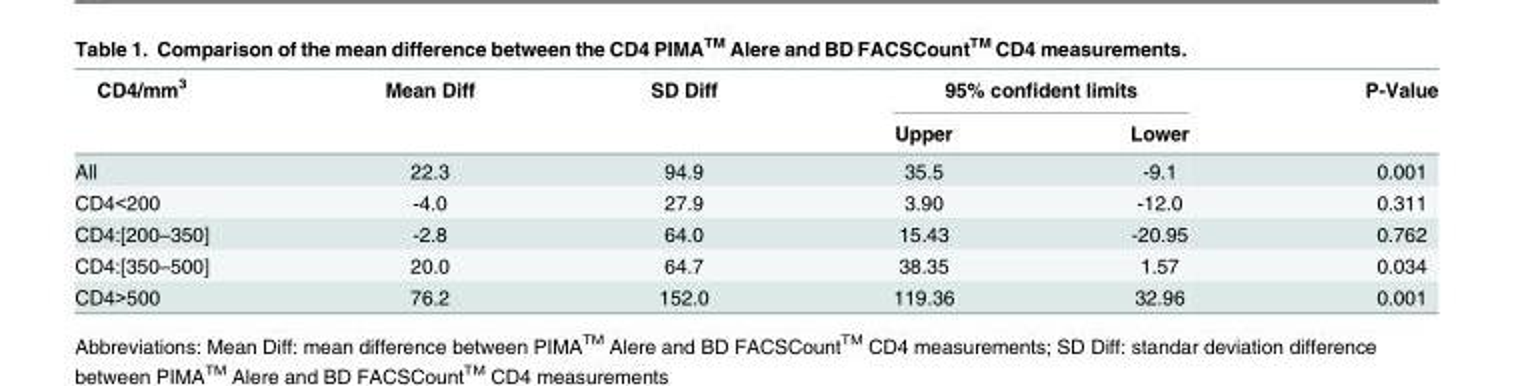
<table><thead><tr><td rowspan="2">CD4/mm<sup>3</sup></td><td rowspan="2">Mean Diff</td><td rowspan="2">SD Diff</td><td colspan="2">95% confident limits</td><td rowspan="2">P-Value</td></tr><tr><td>Upper</td><td>Lower</td></tr></thead><tbody><tr><td>All</td><td>22.3</td><td>94.9</td><td>35.5</td><td>-9.1</td><td>0.001</td></tr><tr><td>CD4&lt;200</td><td>-4.0</td><td>27.9</td><td>3.90</td><td>-12.0</td><td>0.311</td></tr><tr><td>CD4:[200–350]</td><td>-2.8</td><td>64.0</td><td>15.43</td><td>-20.95</td><td>0.762</td></tr><tr><td>CD4:[350–500]</td><td>20.0</td><td>64.7</td><td>38.35</td><td>1.57</td><td>0.034</td></tr><tr><td>CD4&gt;500</td><td>76.2</td><td>152.0</td><td>119.36</td><td>32.96</td><td>0.001</td></tr></tbody></table>